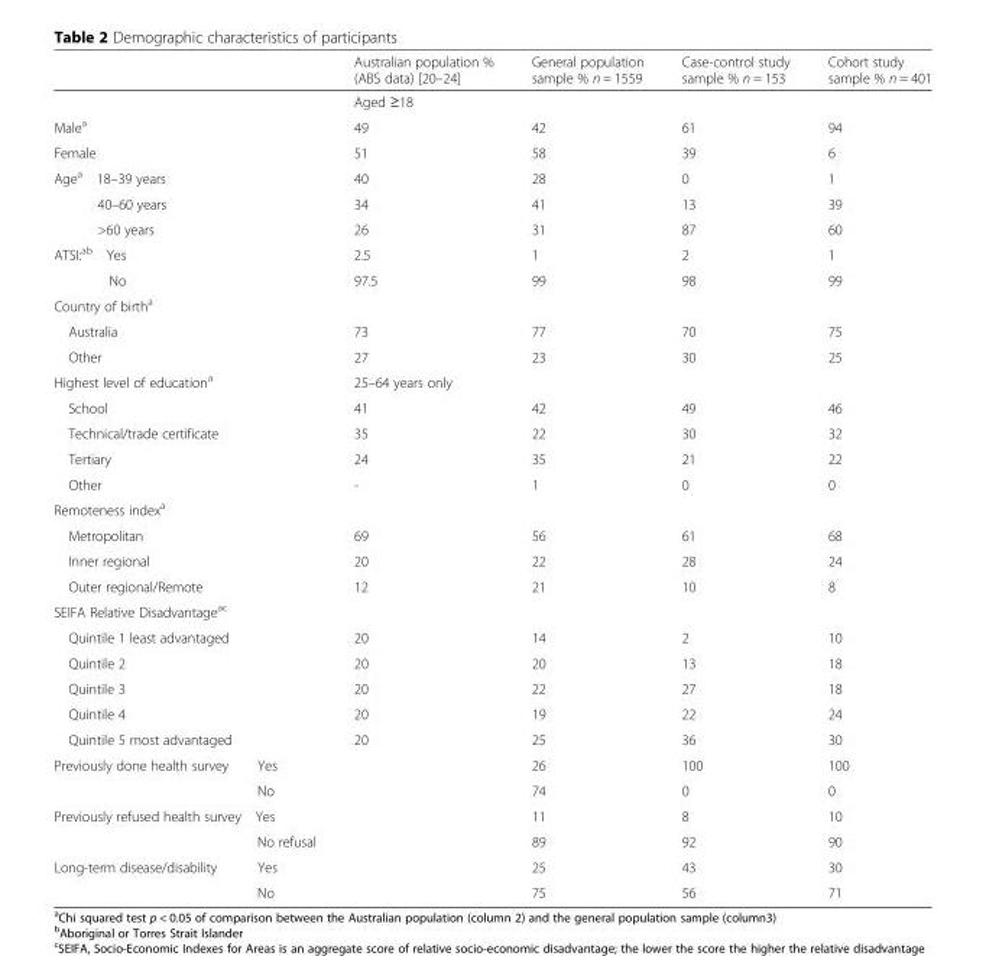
<table><thead><tr><td></td><td>Australian population % (ABS data) [20–24]</td><td>General population sample % n = 1559</td><td>Case-control study sample % n = 153</td><td>Cohort study sample % n = 401</td></tr></thead><tbody><tr><td></td><td>Aged ≥18</td><td></td><td></td><td></td></tr><tr><td>Male<sup>a</sup></td><td>49</td><td>42</td><td>61</td><td>94</td></tr><tr><td>Female</td><td>51</td><td>58</td><td>39</td><td>6</td></tr><tr><td>Age<sup>a</sup> 18–39 years</td><td>40</td><td>28</td><td>0</td><td>1</td></tr><tr><td>40–60 years</td><td>34</td><td>41</td><td>13</td><td>39</td></tr><tr><td>&gt;60 years</td><td>26</td><td>31</td><td>87</td><td>60</td></tr><tr><td>ATSI:<sup>ab</sup> Yes</td><td>2.5</td><td>1</td><td>2</td><td>1</td></tr><tr><td>No</td><td>97.5</td><td>99</td><td>98</td><td>99</td></tr><tr><td colspan="5">Country of birth<sup>a</sup></td></tr><tr><td>Australia</td><td>73</td><td>77</td><td>70</td><td>75</td></tr><tr><td>Other</td><td>27</td><td>23</td><td>30</td><td>25</td></tr><tr><td>Highest level of education<sup>a</sup></td><td>25–64 years only</td><td></td><td></td><td></td></tr><tr><td>School</td><td>41</td><td>42</td><td>49</td><td>46</td></tr><tr><td>Technical/trade certificate</td><td>35</td><td>22</td><td>30</td><td>32</td></tr><tr><td>Tertiary</td><td>24</td><td>35</td><td>21</td><td>22</td></tr><tr><td>Other</td><td>-</td><td>1</td><td>0</td><td>0</td></tr><tr><td colspan="5">Remoteness index<sup>a</sup></td></tr><tr><td>Metropolitan</td><td>69</td><td>56</td><td>61</td><td>68</td></tr><tr><td>Inner regional</td><td>20</td><td>22</td><td>28</td><td>24</td></tr><tr><td>Outer regional/Remote</td><td>12</td><td>21</td><td>10</td><td>8</td></tr><tr><td colspan="5">SEIFA Relative Disadvantage<sup>ac</sup></td></tr><tr><td>Quintile 1 least advantaged</td><td>20</td><td>14</td><td>2</td><td>10</td></tr><tr><td>Quintile 2</td><td>20</td><td>20</td><td>13</td><td>18</td></tr><tr><td>Quintile 3</td><td>20</td><td>22</td><td>27</td><td>18</td></tr><tr><td>Quintile 4</td><td>20</td><td>19</td><td>22</td><td>24</td></tr><tr><td>Quintile 5 most advantaged</td><td>20</td><td>25</td><td>36</td><td>30</td></tr><tr><td>Previously done health survey Yes</td><td></td><td>26</td><td>100</td><td>100</td></tr><tr><td>No</td><td></td><td>74</td><td>0</td><td>0</td></tr><tr><td>Previously refused health survey Yes</td><td></td><td>11</td><td>8</td><td>10</td></tr><tr><td>No refusal</td><td></td><td>89</td><td>92</td><td>90</td></tr><tr><td>Long-term disease/disability Yes</td><td></td><td>25</td><td>43</td><td>30</td></tr><tr><td>No</td><td></td><td>75</td><td>56</td><td>71</td></tr></tbody></table>